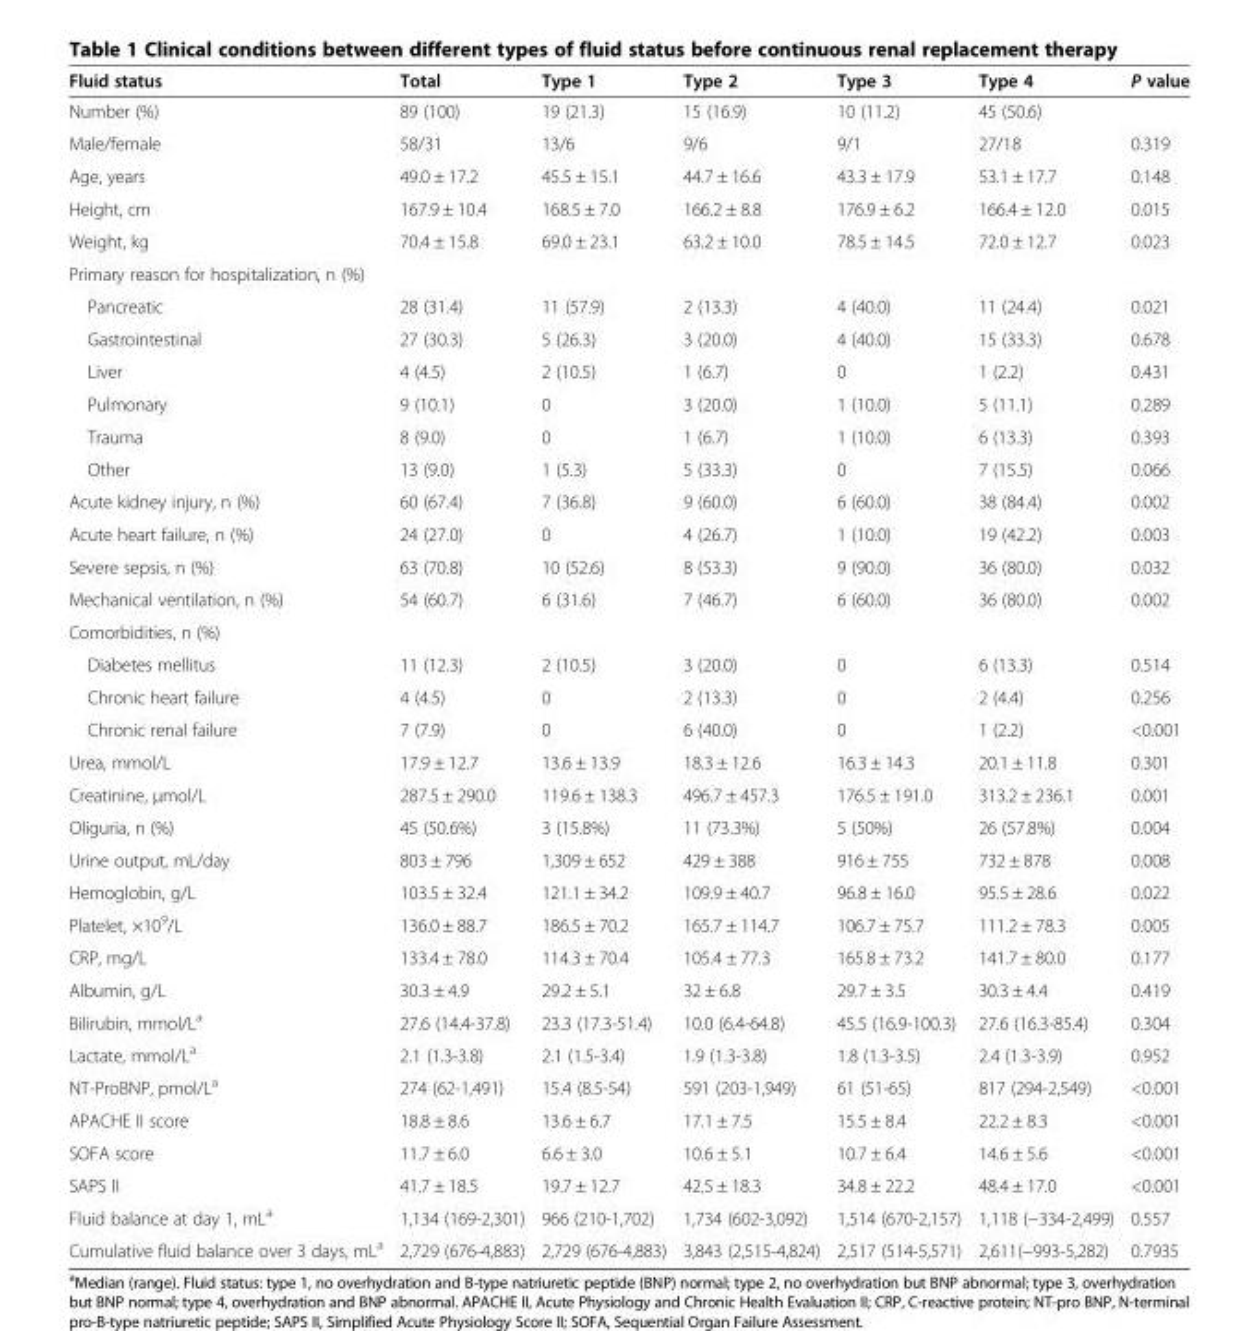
<table><thead><tr><td>Fluid status</td><td>Total</td><td>Type 1</td><td>Type 2</td><td>Type 3</td><td>Type 4</td><td>P value</td></tr></thead><tbody><tr><td>Number (%)</td><td>89 (100)</td><td>19 (21.3)</td><td>15 (16.9)</td><td>10 (11.2)</td><td>45 (50.6)</td><td></td></tr><tr><td>Male/female</td><td>58/31</td><td>13/6</td><td>9/6</td><td>9/1</td><td>27/18</td><td>0.319</td></tr><tr><td>Age, years</td><td>49.0 ± 17.2</td><td>45.5 ± 15.1</td><td>44.7 ± 16.6</td><td>43.3 ± 17.9</td><td>53.1 ± 17.7</td><td>0.148</td></tr><tr><td>Height, cm</td><td>167.9 ± 10.4</td><td>168.5 ± 7.0</td><td>166.2 ± 8.8</td><td>176.9 ± 6.2</td><td>166.4 ± 12.0</td><td>0.015</td></tr><tr><td>Weight, kg</td><td>70.4 ± 15.8</td><td>69.0 ± 23.1</td><td>63.2 ± 10.0</td><td>78.5 ± 14.5</td><td>72.0 ± 12.7</td><td>0.023</td></tr><tr><td colspan="7">Primary reason for hospitalization, n (%)</td></tr><tr><td>Pancreatic</td><td>28 (31.4)</td><td>11 (57.9)</td><td>2 (13.3)</td><td>4 (40.0)</td><td>11 (24.4)</td><td>0.021</td></tr><tr><td>Gastrointestinal</td><td>27 (30.3)</td><td>5 (26.3)</td><td>3 (20.0)</td><td>4 (40.0)</td><td>15 (33.3)</td><td>0.678</td></tr><tr><td>Liver</td><td>4 (4.5)</td><td>2 (10.5)</td><td>1 (6.7)</td><td>0</td><td>1 (2.2)</td><td>0.431</td></tr><tr><td>Pulmonary</td><td>9 (10.1)</td><td>0</td><td>3 (20.0)</td><td>1 (10.0)</td><td>5 (11.1)</td><td>0.289</td></tr><tr><td>Trauma</td><td>8 (9.0)</td><td>0</td><td>1 (6.7)</td><td>1 (10.0)</td><td>6 (13.3)</td><td>0.393</td></tr><tr><td>Other</td><td>13 (9.0)</td><td>1 (5.3)</td><td>5 (33.3)</td><td>0</td><td>7 (15.5)</td><td>0.066</td></tr><tr><td>Acute kidney injury, n (%)</td><td>60 (67.4)</td><td>7 (36.8)</td><td>9 (60.0)</td><td>6 (60.0)</td><td>38 (84.4)</td><td>0.002</td></tr><tr><td>Acute heart failure, n (%)</td><td>24 (27.0)</td><td>0</td><td>4 (26.7)</td><td>1 (10.0)</td><td>19 (42.2)</td><td>0.003</td></tr><tr><td>Severe sepsis, n (%)</td><td>63 (70.8)</td><td>10 (52.6)</td><td>8 (53.3)</td><td>9 (90.0)</td><td>36 (80.0)</td><td>0.032</td></tr><tr><td>Mechanical ventilation, n (%)</td><td>54 (60.7)</td><td>6 (31.6)</td><td>7 (46.7)</td><td>6 (60.0)</td><td>36 (80.0)</td><td>0.002</td></tr><tr><td colspan="7">Comorbidities, n (%)</td></tr><tr><td>Diabetes mellitus</td><td>11 (12.3)</td><td>2 (10.5)</td><td>3 (20.0)</td><td>0</td><td>6 (13.3)</td><td>0.514</td></tr><tr><td>Chronic heart failure</td><td>4 (4.5)</td><td>0</td><td>2 (13.3)</td><td>0</td><td>2 (4.4)</td><td>0.256</td></tr><tr><td>Chronic renal failure</td><td>7 (7.9)</td><td>0</td><td>6 (40.0)</td><td>0</td><td>1 (2.2)</td><td>&lt;0.001</td></tr><tr><td>Urea, mmol/L</td><td>17.9 ± 12.7</td><td>13.6 ± 13.9</td><td>18.3 ± 12.6</td><td>16.3 ± 14.3</td><td>20.1 ± 11.8</td><td>0.301</td></tr><tr><td>Creatinine, μmol/L</td><td>287.5 ± 290.0</td><td>119.6 ± 138.3</td><td>496.7 ± 457.3</td><td>176.5 ± 191.0</td><td>313.2 ± 236.1</td><td>0.001</td></tr><tr><td>Oliguria, n (%)</td><td>45 (50.6%)</td><td>3 (15.8%)</td><td>11 (73.3%)</td><td>5 (50%)</td><td>26 (57.8%)</td><td>0.004</td></tr><tr><td>Urine output, mL/day</td><td>803 ± 796</td><td>1,309 ± 652</td><td>429 ± 388</td><td>916 ± 755</td><td>732 ± 878</td><td>0.008</td></tr><tr><td>Hemoglobin, g/L</td><td>103.5 ± 32.4</td><td>121.1 ± 34.2</td><td>109.9 ± 40.7</td><td>96.8 ± 16.0</td><td>95.5 ± 28.6</td><td>0.022</td></tr><tr><td>Platelet, ×10<sup>9</sup>/L</td><td>136.0 ± 88.7</td><td>186.5 ± 70.2</td><td>165.7 ± 114.7</td><td>106.7 ± 75.7</td><td>111.2 ± 78.3</td><td>0.005</td></tr><tr><td>CRP, mg/L</td><td>133.4 ± 78.0</td><td>114.3 ± 70.4</td><td>105.4 ± 77.3</td><td>165.8 ± 73.2</td><td>141.7 ± 80.0</td><td>0.177</td></tr><tr><td>Albumin, g/L</td><td>30.3 ± 4.9</td><td>29.2 ± 5.1</td><td>32 ± 6.8</td><td>29.7 ± 3.5</td><td>30.3 ± 4.4</td><td>0.419</td></tr><tr><td>Bilirubin, mmol/L<sup>a</sup></td><td>27.6 (14.4-37.8)</td><td>23.3 (17.3-51.4)</td><td>10.0 (6.4-64.8)</td><td>45.5 (16.9-100.3)</td><td>27.6 (16.3-85.4)</td><td>0.304</td></tr><tr><td>Lactate, mmol/L<sup>a</sup></td><td>2.1 (1.3-3.8)</td><td>2.1 (1.5-3.4)</td><td>1.9 (1.3-3.8)</td><td>1.8 (1.3-3.5)</td><td>2.4 (1.3-3.9)</td><td>0.952</td></tr><tr><td>NT-ProBNP, pmol/L<sup>a</sup></td><td>274 (62-1,491)</td><td>15.4 (8.5-54)</td><td>591 (203-1,949)</td><td>61 (51-65)</td><td>817 (294-2,549)</td><td>&lt;0.001</td></tr><tr><td>APACHE II score</td><td>18.8 ± 8.6</td><td>13.6 ± 6.7</td><td>17.1 ± 7.5</td><td>15.5 ± 8.4</td><td>22.2 ± 8.3</td><td>&lt;0.001</td></tr><tr><td>SOFA score</td><td>11.7 ± 6.0</td><td>6.6 ± 3.0</td><td>10.6 ± 5.1</td><td>10.7 ± 6.4</td><td>14.6 ± 5.6</td><td>&lt;0.001</td></tr><tr><td>SAPS II</td><td>41.7 ± 18.5</td><td>19.7 ± 12.7</td><td>42.5 ± 18.3</td><td>34.8 ± 22.2</td><td>48.4 ± 17.0</td><td>&lt;0.001</td></tr><tr><td>Fluid balance at day 1, mL<sup>a</sup></td><td>1,134 (169-2,301)</td><td>966 (210-1,702)</td><td>1,734 (602-3,092)</td><td>1,514 (670-2,157)</td><td>1,118 (−334-2,499)</td><td>0.557</td></tr><tr><td>Cumulative fluid balance over 3 days, mL<sup>a</sup></td><td>2,729 (676-4,883)</td><td>2,729 (676-4,883)</td><td>3,843 (2,515-4,824)</td><td>2,517 (514-5,571)</td><td>2,611(−993-5,282)</td><td>0.7935</td></tr></tbody></table>